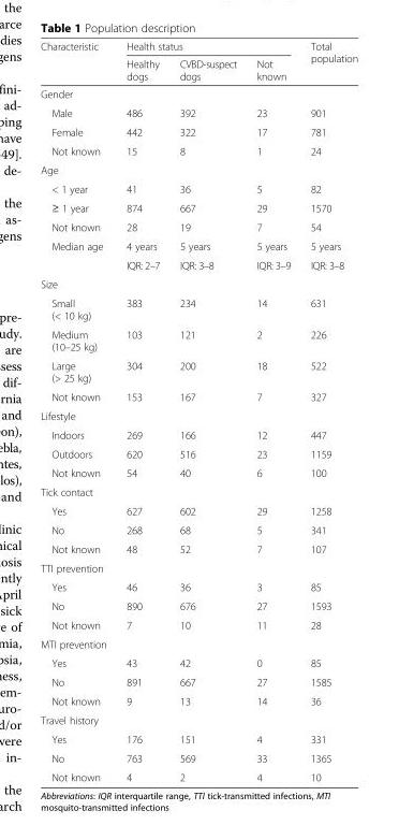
<table><thead><tr><td rowspan="2">Characteristic</td><td colspan="3">Health status</td><td rowspan="2">Total population</td></tr><tr><td>Healthy dogs</td><td>CVBD-suspect dogs</td><td>Not known</td></tr></thead><tbody><tr><td colspan="5">Gender</td></tr><tr><td>Male</td><td>486</td><td>392</td><td>23</td><td>901</td></tr><tr><td>Female</td><td>442</td><td>322</td><td>17</td><td>781</td></tr><tr><td>Not known</td><td>15</td><td>8</td><td>1</td><td>24</td></tr><tr><td colspan="5">Age</td></tr><tr><td>&lt; 1 year</td><td>41</td><td>36</td><td>5</td><td>82</td></tr><tr><td>≥ 1 year</td><td>874</td><td>667</td><td>29</td><td>1570</td></tr><tr><td>Not known</td><td>28</td><td>19</td><td>7</td><td>54</td></tr><tr><td rowspan="2">Median age</td><td>4 years</td><td>5 years</td><td>5 years</td><td>5 years</td></tr><tr><td>IQR: 2–7</td><td>IQR: 3–8</td><td>IQR: 3–9</td><td>IQR: 3–8</td></tr><tr><td colspan="5">Size</td></tr><tr><td>Small (&lt; 10 kg)</td><td>383</td><td>234</td><td>14</td><td>631</td></tr><tr><td>Medium (10–25 kg)</td><td>103</td><td>121</td><td>2</td><td>226</td></tr><tr><td>Large (&gt; 25 kg)</td><td>304</td><td>200</td><td>18</td><td>522</td></tr><tr><td>Not known</td><td>153</td><td>167</td><td>7</td><td>327</td></tr><tr><td colspan="5">Lifestyle</td></tr><tr><td>Indoors</td><td>269</td><td>166</td><td>12</td><td>447</td></tr><tr><td>Outdoors</td><td>620</td><td>516</td><td>23</td><td>1159</td></tr><tr><td>Not known</td><td>54</td><td>40</td><td>6</td><td>100</td></tr><tr><td colspan="5">Tick contact</td></tr><tr><td>Yes</td><td>627</td><td>602</td><td>29</td><td>1258</td></tr><tr><td>No</td><td>268</td><td>68</td><td>5</td><td>341</td></tr><tr><td>Not known</td><td>48</td><td>52</td><td>7</td><td>107</td></tr><tr><td colspan="5">TTI prevention</td></tr><tr><td>Yes</td><td>46</td><td>36</td><td>3</td><td>85</td></tr><tr><td>No</td><td>890</td><td>676</td><td>27</td><td>1593</td></tr><tr><td>Not known</td><td>7</td><td>10</td><td>11</td><td>28</td></tr><tr><td colspan="5">MTI prevention</td></tr><tr><td>Yes</td><td>43</td><td>42</td><td>0</td><td>85</td></tr><tr><td>No</td><td>891</td><td>667</td><td>27</td><td>1585</td></tr><tr><td>Not known</td><td>9</td><td>13</td><td>14</td><td>36</td></tr><tr><td colspan="5">Travel history</td></tr><tr><td>Yes</td><td>176</td><td>151</td><td>4</td><td>331</td></tr><tr><td>No</td><td>763</td><td>569</td><td>33</td><td>1365</td></tr><tr><td>Not known</td><td>4</td><td>2</td><td>4</td><td>10</td></tr></tbody></table>